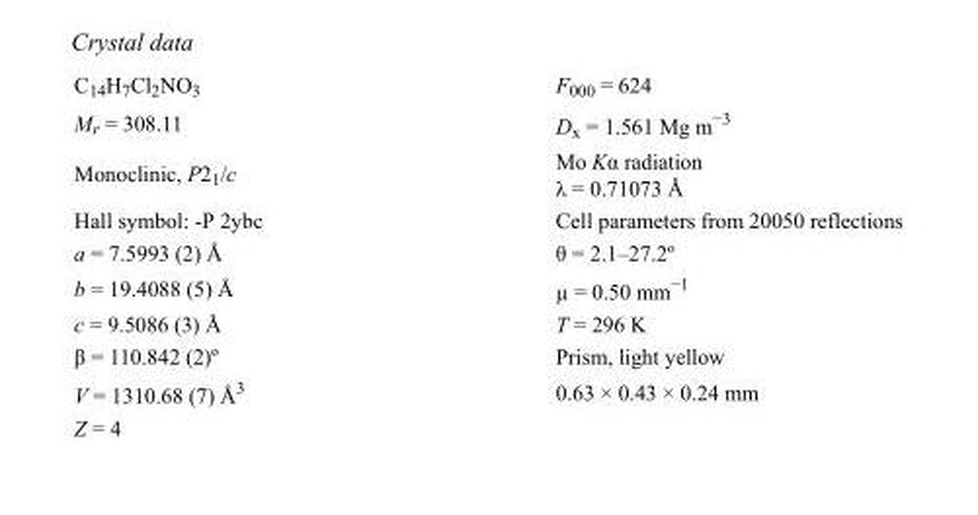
<table><tbody><tr><td>C<sub>14</sub>H<sub>7</sub>Cl<sub>2</sub>NO<sub>3</sub></td><td>F<sub>000</sub> = 624</td></tr><tr><td>M<sub>r</sub> = 308.11</td><td>D<sub>x</sub> = 1.561 Mg m<sup>−3</sup></td></tr><tr><td>Monoclinic, P2<sub>1</sub>/c</td><td>Mo Kα radiation λ = 0.71073 Å</td></tr><tr><td>Hall symbol: -P 2ybc</td><td>Cell parameters from 20050 reflections</td></tr><tr><td>a = 7.5993 (2) Å</td><td>θ = 2.1–27.2º</td></tr><tr><td>b = 19.4088 (5) Å</td><td>µ = 0.50 mm<sup>−1</sup></td></tr><tr><td>c = 9.5086 (3) Å</td><td>T = 296 K</td></tr><tr><td>β = 110.842 (2)º</td><td>Prism, light yellow</td></tr><tr><td>V = 1310.68 (7) Å<sup>3</sup></td><td>0.63 × 0.43 × 0.24 mm</td></tr><tr><td>Z = 4</td><td></td></tr></tbody></table>